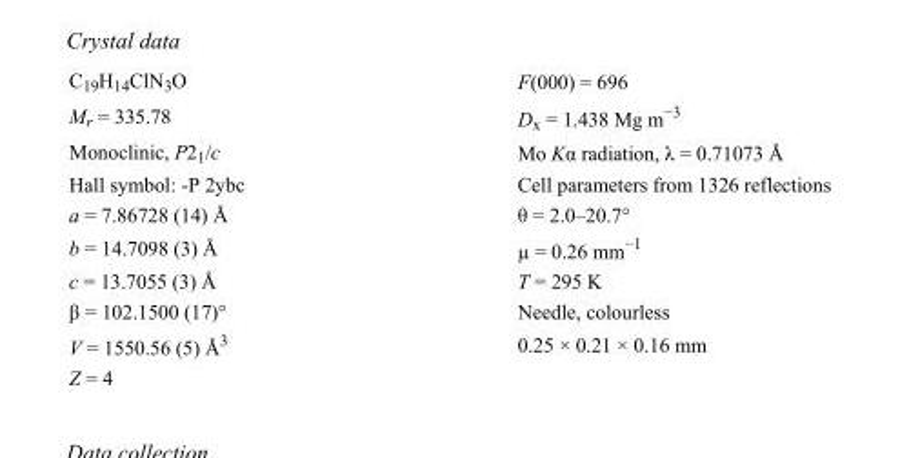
<table><tbody><tr><td>C<sub>19</sub>H<sub>14</sub>ClN<sub>3</sub>O</td><td>F(000) = 696</td></tr><tr><td>M<sub>r</sub> = 335.78</td><td>D<sub>x</sub> = 1.438 Mg m<sup>−3</sup></td></tr><tr><td>Monoclinic, P2<sub>1</sub>/c</td><td>Mo Kα radiation, λ = 0.71073 Å</td></tr><tr><td>Hall symbol: -P 2ybc</td><td>Cell parameters from 1326 reflections</td></tr><tr><td>a = 7.86728 (14) Å</td><td>θ = 2.0–20.7°</td></tr><tr><td>b = 14.7098 (3) Å</td><td>µ = 0.26 mm<sup>−1</sup></td></tr><tr><td>c = 13.7055 (3) Å</td><td>T = 295 K</td></tr><tr><td>β = 102.1500 (17)°</td><td>Needle, colourless</td></tr><tr><td>V = 1550.56 (5) Å<sup>3</sup></td><td>0.25 × 0.21 × 0.16 mm</td></tr><tr><td>Z = 4</td><td></td></tr></tbody></table>